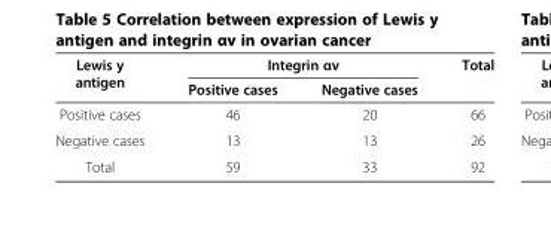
<table><thead><tr><td rowspan="2">Lewis y antigen</td><td colspan="2">Integrin αv</td><td rowspan="2">Total</td></tr><tr><td>Positive cases</td><td>Negative cases</td></tr></thead><tbody><tr><td>Positive cases</td><td>46</td><td>20</td><td>66</td></tr><tr><td>Negative cases</td><td>13</td><td>13</td><td>26</td></tr><tr><td>Total</td><td>59</td><td>33</td><td>92</td></tr></tbody></table>